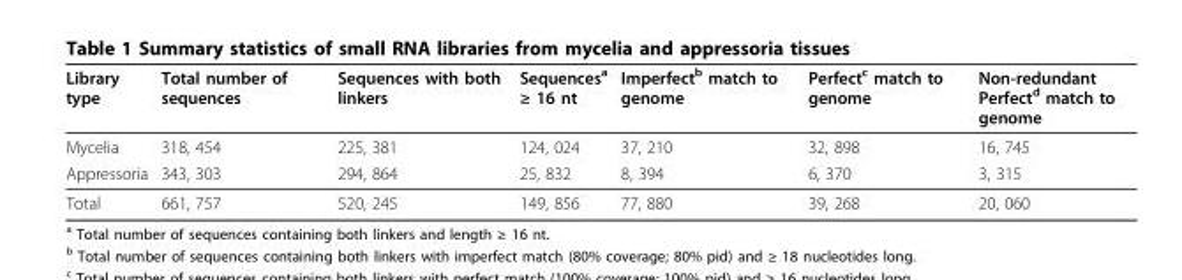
<table><thead><tr><td>Library type</td><td>Total number of sequences</td><td>Sequences with both linkers</td><td>Sequences<sup>a</sup> ≥ 16 nt</td><td>Imperfect<sup>b</sup> match to genome</td><td>Perfect<sup>c</sup> match to genome</td><td>Non-redundant Perfect<sup>d</sup> match to genome</td></tr></thead><tbody><tr><td>Mycelia</td><td>318, 454</td><td>225, 381</td><td>124, 024</td><td>37, 210</td><td>32, 898</td><td>16, 745</td></tr><tr><td>Appressoria</td><td>343, 303</td><td>294, 864</td><td>25, 832</td><td>8, 394</td><td>6, 370</td><td>3, 315</td></tr><tr><td>Total</td><td>661, 757</td><td>520, 245</td><td>149, 856</td><td>77, 880</td><td>39, 268</td><td>20, 060</td></tr></tbody></table>